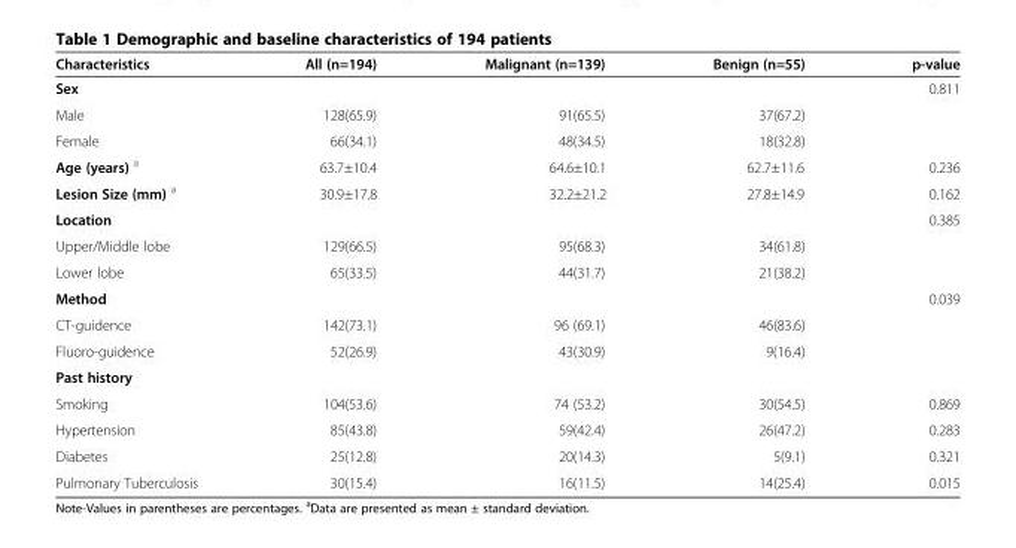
<table><thead><tr><td>Characteristics</td><td>All (n=194)</td><td>Malignant (n=139)</td><td>Benign (n=55)</td><td>p-value</td></tr></thead><tbody><tr><td>Sex</td><td></td><td></td><td></td><td>0.811</td></tr><tr><td>Male</td><td>128(65.9)</td><td>91(65.5)</td><td>37(67.2)</td><td></td></tr><tr><td>Female</td><td>66(34.1)</td><td>48(34.5)</td><td>18(32.8)</td><td></td></tr><tr><td>Age (years) <sup>a</sup></td><td>63.7±10.4</td><td>64.6±10.1</td><td>62.7±11.6</td><td>0.236</td></tr><tr><td>Lesion Size (mm) <sup>a</sup></td><td>30.9±17.8</td><td>32.2±21.2</td><td>27.8±14.9</td><td>0.162</td></tr><tr><td>Location</td><td></td><td></td><td></td><td>0.385</td></tr><tr><td>Upper/Middle lobe</td><td>129(66.5)</td><td>95(68.3)</td><td>34(61.8)</td><td></td></tr><tr><td>Lower lobe</td><td>65(33.5)</td><td>44(31.7)</td><td>21(38.2)</td><td></td></tr><tr><td>Method</td><td></td><td></td><td></td><td>0.039</td></tr><tr><td>CT-guidence</td><td>142(73.1)</td><td>96 (69.1)</td><td>46(83.6)</td><td></td></tr><tr><td>Fluoro-guidence</td><td>52(26.9)</td><td>43(30.9)</td><td>9(16.4)</td><td></td></tr><tr><td colspan="5">Past history</td></tr><tr><td>Smoking</td><td>104(53.6)</td><td>74 (53.2)</td><td>30(54.5)</td><td>0.869</td></tr><tr><td>Hypertension</td><td>85(43.8)</td><td>59(42.4)</td><td>26(47.2)</td><td>0.283</td></tr><tr><td>Diabetes</td><td>25(12.8)</td><td>20(14.3)</td><td>5(9.1)</td><td>0.321</td></tr><tr><td>Pulmonary Tuberculosis</td><td>30(15.4)</td><td>16(11.5)</td><td>14(25.4)</td><td>0.015</td></tr></tbody></table>